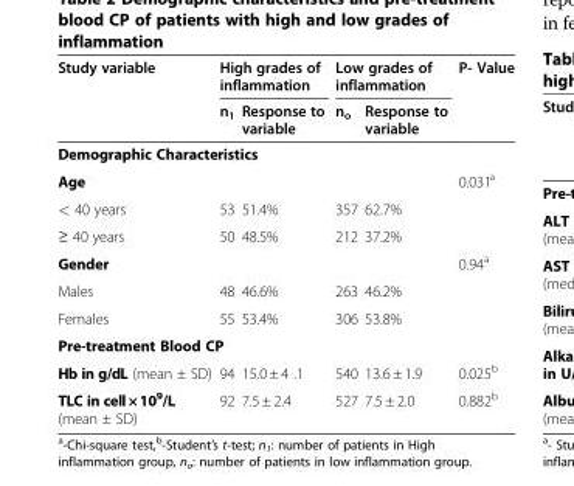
<table><thead><tr><td rowspan="2">Study variable</td><td colspan="2">High grades of inflammation</td><td colspan="2">Low grades of inflammation</td><td rowspan="2">P- Value</td></tr><tr><td>n<sub>1</sub></td><td>Response to variable</td><td>n<sub>o</sub></td><td>Response to variable</td></tr></thead><tbody><tr><td colspan="6">Demographic Characteristics</td></tr><tr><td>Age</td><td></td><td></td><td></td><td></td><td>0.031<sup>a</sup></td></tr><tr><td>&lt; 40 years</td><td>53</td><td>51.4%</td><td>357</td><td>62.7%</td><td></td></tr><tr><td>≥ 40 years</td><td>50</td><td>48.5%</td><td>212</td><td>37.2%</td><td></td></tr><tr><td>Gender</td><td></td><td></td><td></td><td></td><td>0.94<sup>a</sup></td></tr><tr><td>Males</td><td>48</td><td>46.6%</td><td>263</td><td>46.2%</td><td></td></tr><tr><td>Females</td><td>55</td><td>53.4%</td><td>306</td><td>53.8%</td><td></td></tr><tr><td colspan="6">Pre-treatment Blood CP</td></tr><tr><td>Hb in g/dL (mean ± SD)</td><td>94</td><td>15.0 ± 4 .1</td><td>540</td><td>13.6 ± 1.9</td><td>0.025<sup>b</sup></td></tr><tr><td>TLC in cell×10<sup>9</sup>/L (mean ± SD)</td><td>92</td><td>7.5 ± 2.4</td><td>527</td><td>7.5 ± 2.0</td><td>0.882<sup>b</sup></td></tr></tbody></table>